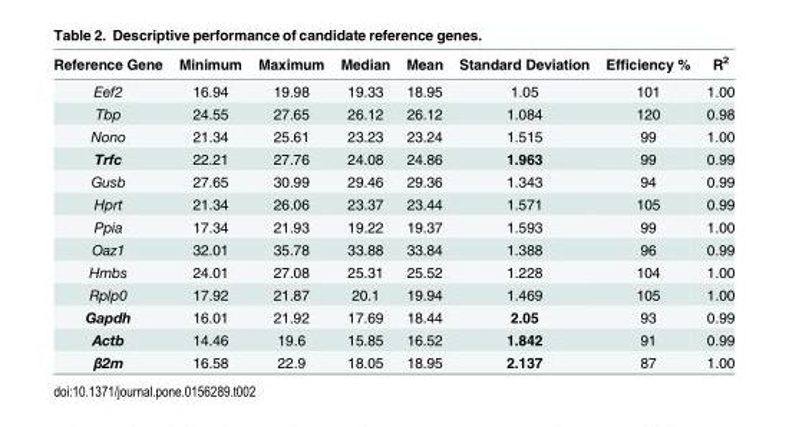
<table><thead><tr><td>Reference Gene</td><td>Minimum</td><td>Maximum</td><td>Median</td><td>Mean</td><td>Standard Deviation</td><td>Efficiency %</td><td>R<sup>2</sup></td></tr></thead><tbody><tr><td>Eef2</td><td>16.94</td><td>19.98</td><td>19.33</td><td>18.95</td><td>1.05</td><td>101</td><td>1.00</td></tr><tr><td>Tbp</td><td>24.55</td><td>27.65</td><td>26.12</td><td>26.12</td><td>1.084</td><td>120</td><td>0.98</td></tr><tr><td>Nono</td><td>21.34</td><td>25.61</td><td>23.23</td><td>23.24</td><td>1.515</td><td>99</td><td>1.00</td></tr><tr><td>Trfc</td><td>22.21</td><td>27.76</td><td>24.08</td><td>24.86</td><td>1.963</td><td>99</td><td>0.99</td></tr><tr><td>Gusb</td><td>27.65</td><td>30.99</td><td>29.46</td><td>29.36</td><td>1.343</td><td>94</td><td>0.99</td></tr><tr><td>Hprt</td><td>21.34</td><td>26.06</td><td>23.37</td><td>23.44</td><td>1.571</td><td>105</td><td>0.99</td></tr><tr><td>Ppia</td><td>17.34</td><td>21.93</td><td>19.22</td><td>19.37</td><td>1.593</td><td>99</td><td>1.00</td></tr><tr><td>Oaz1</td><td>32.01</td><td>35.78</td><td>33.88</td><td>33.84</td><td>1.388</td><td>96</td><td>0.99</td></tr><tr><td>Hmbs</td><td>24.01</td><td>27.08</td><td>25.31</td><td>25.52</td><td>1.228</td><td>104</td><td>1.00</td></tr><tr><td>Rplp0</td><td>17.92</td><td>21.87</td><td>20.1</td><td>19.94</td><td>1.469</td><td>105</td><td>1.00</td></tr><tr><td>Gapdh</td><td>16.01</td><td>21.92</td><td>17.69</td><td>18.44</td><td>2.05</td><td>93</td><td>0.99</td></tr><tr><td>Actb</td><td>14.46</td><td>19.6</td><td>15.85</td><td>16.52</td><td>1.842</td><td>91</td><td>0.99</td></tr><tr><td>β2m</td><td>16.58</td><td>22.9</td><td>18.05</td><td>18.95</td><td>2.137</td><td>87</td><td>1.00</td></tr></tbody></table>